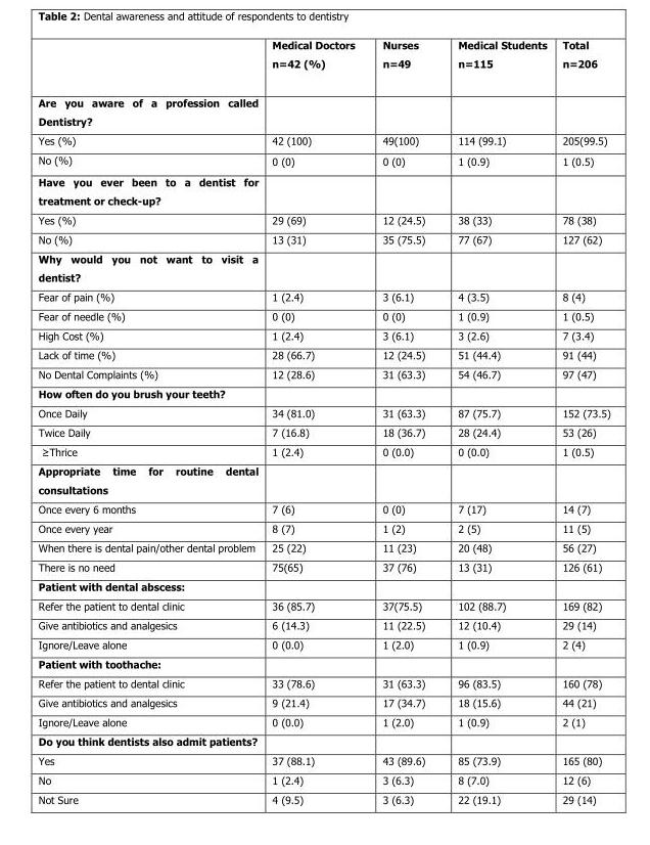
<table><thead><tr><td></td><td>Medical Doctors n=42 (%)</td><td>Nurses n=49</td><td>Medical Students n=115</td><td>Total n=206</td></tr></thead><tbody><tr><td colspan="5">Are you aware of a profession called Dentistry?</td></tr><tr><td>Yes (%)</td><td>42 (100)</td><td>49(100)</td><td>114 (99.1)</td><td>205(99.5)</td></tr><tr><td>No (%)</td><td>0 (0)</td><td>0 (0)</td><td>1 (0.9)</td><td>1 (0.5)</td></tr><tr><td colspan="5">Have you ever been to a dentist for treatment or check-up?</td></tr><tr><td>Yes (%)</td><td>29 (69)</td><td>12 (24.5)</td><td>38 (33)</td><td>78 (38)</td></tr><tr><td>No (%)</td><td>13 (31)</td><td>35 (75.5)</td><td>77 (67)</td><td>127 (62)</td></tr><tr><td colspan="5">Why would you not want to visit a dentist?</td></tr><tr><td>Fear of pain (%)</td><td>1 (2.4)</td><td>3 (6.1)</td><td>4 (3.5)</td><td>8 (4)</td></tr><tr><td>Fear of needle (%)</td><td>0 (0)</td><td>0 (0)</td><td>1 (0.9)</td><td>1 (0.5)</td></tr><tr><td>High Cost (%)</td><td>1 (2.4)</td><td>3 (6.1)</td><td>3 (2.6)</td><td>7 (3.4)</td></tr><tr><td>Lack of time (%)</td><td>28 (66.7)</td><td>12 (24.5)</td><td>51 (44.4)</td><td>91 (44)</td></tr><tr><td>No Dental Complaints (%)</td><td>12 (28.6)</td><td>31 (63.3)</td><td>54 (46.7)</td><td>97 (47)</td></tr><tr><td colspan="5">How often do you brush your teeth?</td></tr><tr><td>Once Daily</td><td>34 (81.0)</td><td>31 (63.3)</td><td>87 (75.7)</td><td>152 (73.5)</td></tr><tr><td>Twice Daily</td><td>7 (16.8)</td><td>18 (36.7)</td><td>28 (24.4)</td><td>53 (26)</td></tr><tr><td>≥Thrice</td><td>1 (2.4)</td><td>0 (0.0)</td><td>0 (0.0)</td><td>1 (0.5)</td></tr><tr><td colspan="5">Appropriate time for routine dental consultations</td></tr><tr><td>Once every 6 months</td><td>7 (6)</td><td>0 (0)</td><td>7 (17)</td><td>14 (7)</td></tr><tr><td>Once every year</td><td>8 (7)</td><td>1 (2)</td><td>2 (5)</td><td>11 (5)</td></tr><tr><td>When there is dental pain/other dental problem</td><td>25 (22)</td><td>11 (23)</td><td>20 (48)</td><td>56 (27)</td></tr><tr><td>There is no need</td><td>75(65)</td><td>37 (76)</td><td>13 (31)</td><td>126 (61)</td></tr><tr><td colspan="5">Patient with dental abscess:</td></tr><tr><td>Refer the patient to dental clinic</td><td>36 (85.7)</td><td>37(75.5)</td><td>102 (88.7)</td><td>169 (82)</td></tr><tr><td>Give antibiotics and analgesics</td><td>6 (14.3)</td><td>11 (22.5)</td><td>12 (10.4)</td><td>29 (14)</td></tr><tr><td>Ignore/Leave alone</td><td>0 (0.0)</td><td>1 (2.0)</td><td>1 (0.9)</td><td>2 (4)</td></tr><tr><td colspan="5">Patient with toothache:</td></tr><tr><td>Refer the patient to dental clinic</td><td>33 (78.6)</td><td>31 (63.3)</td><td>96 (83.5)</td><td>160 (78)</td></tr><tr><td>Give antibiotics and analgesics</td><td>9 (21.4)</td><td>17 (34.7)</td><td>18 (15.6)</td><td>44 (21)</td></tr><tr><td>Ignore/Leave alone</td><td>0 (0.0)</td><td>1 (2.0)</td><td>1 (0.9)</td><td>2 (1)</td></tr><tr><td colspan="5">Do you think dentists also admit patients?</td></tr><tr><td>Yes</td><td>37 (88.1)</td><td>43 (89.6)</td><td>85 (73.9)</td><td>165 (80)</td></tr><tr><td>No</td><td>1 (2.4)</td><td>3 (6.3)</td><td>8 (7.0)</td><td>12 (6)</td></tr><tr><td>Not Sure</td><td>4 (9.5)</td><td>3 (6.3)</td><td>22 (19.1)</td><td>29 (14)</td></tr></tbody></table>